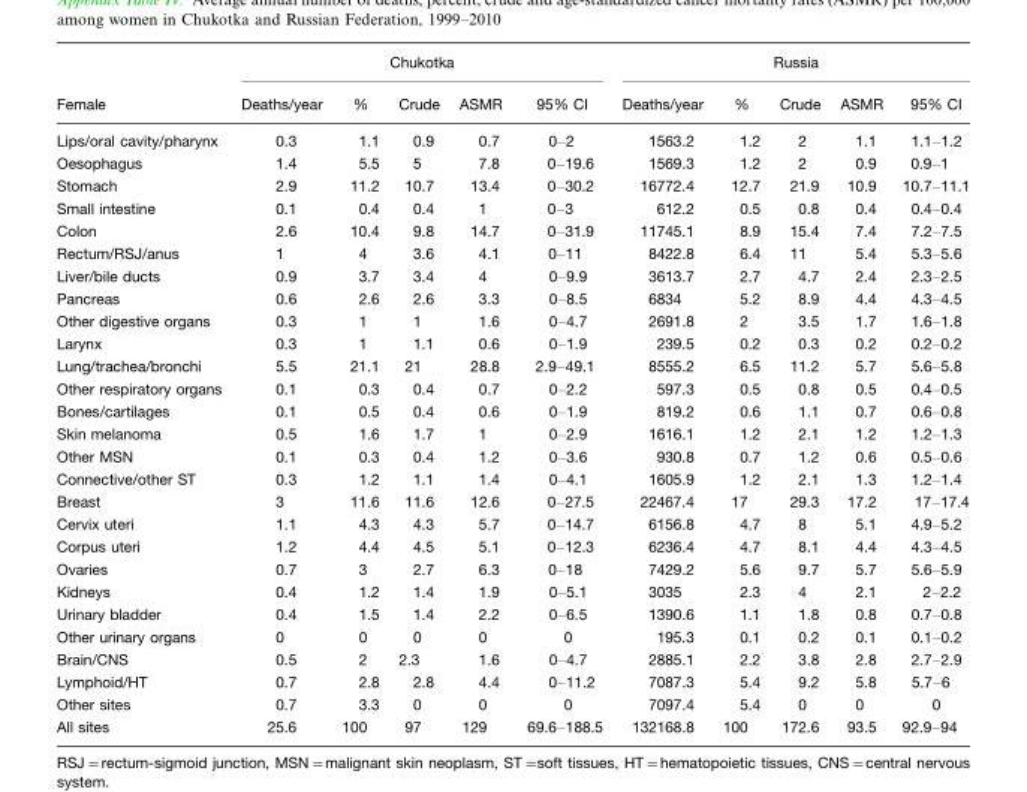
<table><thead><tr><td rowspan="2">Female</td><td colspan="5">Chukotka</td><td colspan="5">Russia</td></tr><tr><td>Deaths/year</td><td>%</td><td>Crude</td><td>ASMR</td><td>95% CI</td><td>Deaths/year</td><td>%</td><td>Crude</td><td>ASMR</td><td>95% CI</td></tr></thead><tbody><tr><td>Lips/oral cavity/pharynx</td><td>0.3</td><td>1.1</td><td>0.9</td><td>0.7</td><td>0–2</td><td>1563.2</td><td>1.2</td><td>2</td><td>1.1</td><td>1.1–1.2</td></tr><tr><td>Oesophagus</td><td>1.4</td><td>5.5</td><td>5</td><td>7.8</td><td>0–19.6</td><td>1569.3</td><td>1.2</td><td>2</td><td>0.9</td><td>0.9–1</td></tr><tr><td>Stomach</td><td>2.9</td><td>11.2</td><td>10.7</td><td>13.4</td><td>0–30.2</td><td>16772.4</td><td>12.7</td><td>21.9</td><td>10.9</td><td>10.7–11.1</td></tr><tr><td>Small intestine</td><td>0.1</td><td>0.4</td><td>0.4</td><td>1</td><td>0–3</td><td>612.2</td><td>0.5</td><td>0.8</td><td>0.4</td><td>0.4–0.4</td></tr><tr><td>Colon</td><td>2.6</td><td>10.4</td><td>9.8</td><td>14.7</td><td>0–31.9</td><td>11745.1</td><td>8.9</td><td>15.4</td><td>7.4</td><td>7.2–7.5</td></tr><tr><td>Rectum/RSJ/anus</td><td>1</td><td>4</td><td>3.6</td><td>4.1</td><td>0–11</td><td>8422.8</td><td>6.4</td><td>11</td><td>5.4</td><td>5.3–5.6</td></tr><tr><td>Liver/bile ducts</td><td>0.9</td><td>3.7</td><td>3.4</td><td>4</td><td>0–9.9</td><td>3613.7</td><td>2.7</td><td>4.7</td><td>2.4</td><td>2.3–2.5</td></tr><tr><td>Pancreas</td><td>0.6</td><td>2.6</td><td>2.6</td><td>3.3</td><td>0–8.5</td><td>6834</td><td>5.2</td><td>8.9</td><td>4.4</td><td>4.3–4.5</td></tr><tr><td>Other digestive organs</td><td>0.3</td><td>1</td><td>1</td><td>1.6</td><td>0–4.7</td><td>2691.8</td><td>2</td><td>3.5</td><td>1.7</td><td>1.6–1.8</td></tr><tr><td>Larynx</td><td>0.3</td><td>1</td><td>1.1</td><td>0.6</td><td>0–1.9</td><td>239.5</td><td>0.2</td><td>0.3</td><td>0.2</td><td>0.2–0.2</td></tr><tr><td>Lung/trachea/bronchi</td><td>5.5</td><td>21.1</td><td>21</td><td>28.8</td><td>2.9–49.1</td><td>8555.2</td><td>6.5</td><td>11.2</td><td>5.7</td><td>5.6–5.8</td></tr><tr><td>Other respiratory organs</td><td>0.1</td><td>0.3</td><td>0.4</td><td>0.7</td><td>0–2.2</td><td>597.3</td><td>0.5</td><td>0.8</td><td>0.5</td><td>0.4–0.5</td></tr><tr><td>Bones/cartilages</td><td>0.1</td><td>0.5</td><td>0.4</td><td>0.6</td><td>0–1.9</td><td>819.2</td><td>0.6</td><td>1.1</td><td>0.7</td><td>0.6–0.8</td></tr><tr><td>Skin melanoma</td><td>0.5</td><td>1.6</td><td>1.7</td><td>1</td><td>0–2.9</td><td>1616.1</td><td>1.2</td><td>2.1</td><td>1.2</td><td>1.2–1.3</td></tr><tr><td>Other MSN</td><td>0.1</td><td>0.3</td><td>0.4</td><td>1.2</td><td>0–3.6</td><td>930.8</td><td>0.7</td><td>1.2</td><td>0.6</td><td>0.5–0.6</td></tr><tr><td>Connective/other ST</td><td>0.3</td><td>1.2</td><td>1.1</td><td>1.4</td><td>0–4.1</td><td>1605.9</td><td>1.2</td><td>2.1</td><td>1.3</td><td>1.2–1.4</td></tr><tr><td>Breast</td><td>3</td><td>11.6</td><td>11.6</td><td>12.6</td><td>0–27.5</td><td>22467.4</td><td>17</td><td>29.3</td><td>17.2</td><td>17–17.4</td></tr><tr><td>Cervix uteri</td><td>1.1</td><td>4.3</td><td>4.3</td><td>5.7</td><td>0–14.7</td><td>6156.8</td><td>4.7</td><td>8</td><td>5.1</td><td>4.9–5.2</td></tr><tr><td>Corpus uteri</td><td>1.2</td><td>4.4</td><td>4.5</td><td>5.1</td><td>0–12.3</td><td>6236.4</td><td>4.7</td><td>8.1</td><td>4.4</td><td>4.3–4.5</td></tr><tr><td>Ovaries</td><td>0.7</td><td>3</td><td>2.7</td><td>6.3</td><td>0–18</td><td>7429.2</td><td>5.6</td><td>9.7</td><td>5.7</td><td>5.6–5.9</td></tr><tr><td>Kidneys</td><td>0.4</td><td>1.2</td><td>1.4</td><td>1.9</td><td>0–5.1</td><td>3035</td><td>2.3</td><td>4</td><td>2.1</td><td>2–2.2</td></tr><tr><td>Urinary bladder</td><td>0.4</td><td>1.5</td><td>1.4</td><td>2.2</td><td>0–6.5</td><td>1390.6</td><td>1.1</td><td>1.8</td><td>0.8</td><td>0.7–0.8</td></tr><tr><td>Other urinary organs</td><td>0</td><td>0</td><td>0</td><td>0</td><td>0</td><td>195.3</td><td>0.1</td><td>0.2</td><td>0.1</td><td>0.1–0.2</td></tr><tr><td>Brain/CNS</td><td>0.5</td><td>2</td><td>2.3</td><td>1.6</td><td>0–4.7</td><td>2885.1</td><td>2.2</td><td>3.8</td><td>2.8</td><td>2.7–2.9</td></tr><tr><td>Lymphoid/HT</td><td>0.7</td><td>2.8</td><td>2.8</td><td>4.4</td><td>0–11.2</td><td>7087.3</td><td>5.4</td><td>9.2</td><td>5.8</td><td>5.7–6</td></tr><tr><td>Other sites</td><td>0.7</td><td>3.3</td><td>0</td><td>0</td><td>0</td><td>7097.4</td><td>5.4</td><td>0</td><td>0</td><td>0</td></tr><tr><td>All sites</td><td>25.6</td><td>100</td><td>97</td><td>129</td><td>69.6–188.5</td><td>132168.8</td><td>100</td><td>172.6</td><td>93.5</td><td>92.9–94</td></tr></tbody></table>